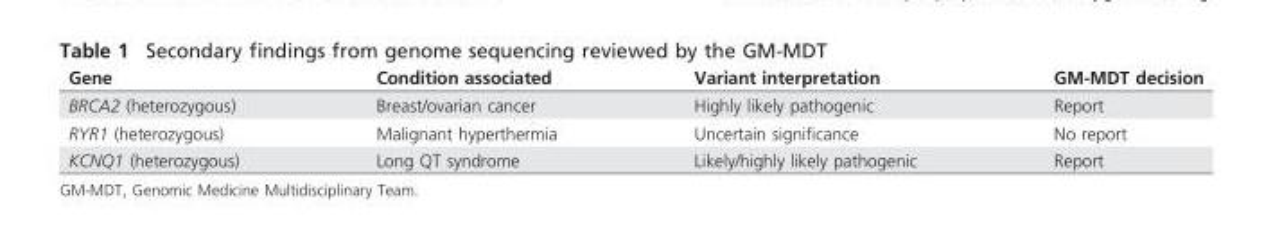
<table><thead><tr><td>Gene</td><td>Condition associated</td><td>Variant interpretation</td><td>GM-MDT decision</td></tr></thead><tbody><tr><td>BRCA2 (heterozygous)</td><td>Breast/ovarian cancer</td><td>Highly likely pathogenic</td><td>Report</td></tr><tr><td>RYR1 (heterozygous)</td><td>Malignant hyperthermia</td><td>Uncertain significance</td><td>No report</td></tr><tr><td>KCNQ1 (heterozygous)</td><td>Long QT syndrome</td><td>Likely/highly likely pathogenic</td><td>Report</td></tr></tbody></table>